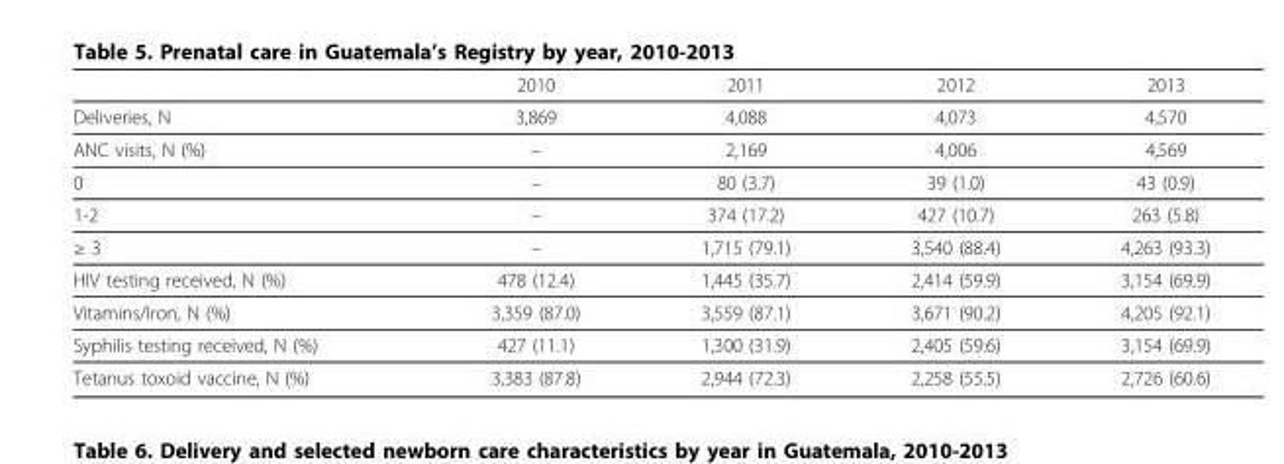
<table><thead><tr><td></td><td>2010</td><td>2011</td><td>2012</td><td>2013</td></tr></thead><tbody><tr><td>Deliveries, N</td><td>3,869</td><td>4,088</td><td>4,073</td><td>4,570</td></tr><tr><td>ANC visits, N (%)</td><td>–</td><td>2,169</td><td>4,006</td><td>4,569</td></tr><tr><td>0</td><td>–</td><td>80 (3.7)</td><td>39 (1.0)</td><td>43 (0.9)</td></tr><tr><td>1-2</td><td>–</td><td>374 (17.2)</td><td>427 (10.7)</td><td>263 (5.8)</td></tr><tr><td>≥ 3</td><td>–</td><td>1,715 (79.1)</td><td>3,540 (88.4)</td><td>4,263 (93.3)</td></tr><tr><td>HIV testing received, N (%)</td><td>478 (12.4)</td><td>1,445 (35.7)</td><td>2,414 (59.9)</td><td>3,154 (69.9)</td></tr><tr><td>Vitamins/Iron, N (%)</td><td>3,359 (87.0)</td><td>3,559 (87.1)</td><td>3,671 (90.2)</td><td>4,205 (92.1)</td></tr><tr><td>Syphilis testing received, N (%)</td><td>427 (11.1)</td><td>1,300 (31.9)</td><td>2,405 (59.6)</td><td>3,154 (69.9)</td></tr><tr><td>Tetanus toxoid vaccine, N (%)</td><td>3,383 (87.8)</td><td>2,944 (72.3)</td><td>2,258 (55.5)</td><td>2,726 (60.6)</td></tr></tbody></table>